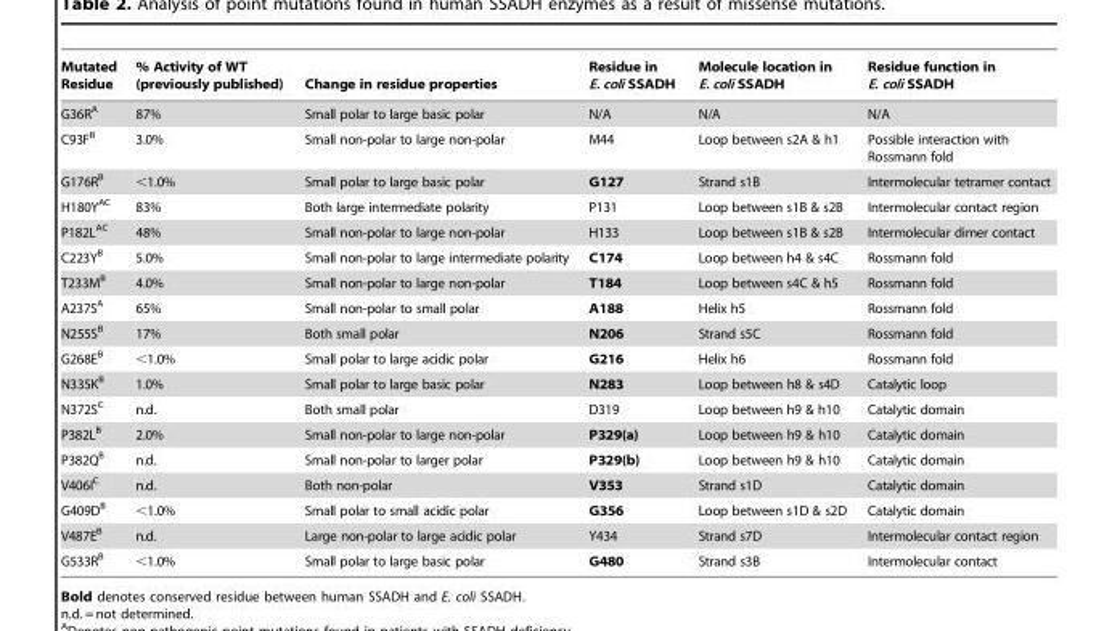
<table><thead><tr><td>Mutated Residue</td><td>% Activity of WT (previously published)</td><td>Change in residue properties</td><td>Residue in E. coli SSADH</td><td>Molecule location in E. coli SSADH</td><td>Residue function in E. coli SSADH</td></tr></thead><tbody><tr><td>G36R<sup>A</sup></td><td>87%</td><td>Small polar to large basic polar</td><td>N/A</td><td>N/A</td><td>N/A</td></tr><tr><td>C93F<sup>B</sup></td><td>3.0%</td><td>Small non-polar to large non-polar</td><td>M44</td><td>Loop between s2A &amp; h1</td><td>Possible interaction with Rossmann fold</td></tr><tr><td>G176R<sup>B</sup></td><td>&lt;1.0%</td><td>Small polar to large basic polar</td><td>G127</td><td>Strand s1B</td><td>Intermolecular tetramer contact</td></tr><tr><td>H180Y<sup>AC</sup></td><td>83%</td><td>Both large intermediate polarity</td><td>P131</td><td>Loop between s1B &amp; s2B</td><td>Intermolecular contact region</td></tr><tr><td>P182L<sup>AC</sup></td><td>48%</td><td>Small non-polar to large non-polar</td><td>H133</td><td>Loop between s1B &amp; s2B</td><td>Intermolecular dimer contact</td></tr><tr><td>C223Y<sup>B</sup></td><td>5.0%</td><td>Small non-polar to large intermediate polarity</td><td>C174</td><td>Loop between h4 &amp; s4C</td><td>Rossmann fold</td></tr><tr><td>T233M<sup>B</sup></td><td>4.0%</td><td>Small non-polar to large non-polar</td><td>T184</td><td>Loop between s4C &amp; h5</td><td>Rossmann fold</td></tr><tr><td>A237S<sup>A</sup></td><td>65%</td><td>Small non-polar to small polar</td><td>A188</td><td>Helix h5</td><td>Rossmann fold</td></tr><tr><td>N255S<sup>B</sup></td><td>17%</td><td>Both small polar</td><td>N206</td><td>Strand s5C</td><td>Rossmann fold</td></tr><tr><td>G268E<sup>B</sup></td><td>&lt;1.0%</td><td>Small polar to large acidic polar</td><td>G216</td><td>Helix h6</td><td>Rossmann fold</td></tr><tr><td>N335K<sup>B</sup></td><td>1.0%</td><td>Small polar to large basic polar</td><td>N283</td><td>Loop between h8 &amp; s4D</td><td>Catalytic loop</td></tr><tr><td>N372S<sup>C</sup></td><td>n.d.</td><td>Both small polar</td><td>D319</td><td>Loop between h9 &amp; h10</td><td>Catalytic domain</td></tr><tr><td>P382L<sup>B</sup></td><td>2.0%</td><td>Small non-polar to large non-polar</td><td>P329(a)</td><td>Loop between h9 &amp; h10</td><td>Catalytic domain</td></tr><tr><td>P382Q<sup>B</sup></td><td>n.d.</td><td>Small non-polar to larger polar</td><td>P329(b)</td><td>Loop between h9 &amp; h10</td><td>Catalytic domain</td></tr><tr><td>V406I<sup>C</sup></td><td>n.d.</td><td>Both non-polar</td><td>V353</td><td>Strand s1D</td><td>Catalytic domain</td></tr><tr><td>G409D<sup>B</sup></td><td>&lt;1.0%</td><td>Small polar to small acidic polar</td><td>G356</td><td>Loop between s1D &amp; s2D</td><td>Catalytic domain</td></tr><tr><td>V487E<sup>B</sup></td><td>n.d.</td><td>Large non-polar to large acidic polar</td><td>Y434</td><td>Strand s7D</td><td>Intermolecular contact region</td></tr><tr><td>G533R<sup>B</sup></td><td>&lt;1.0%</td><td>Small polar to large basic polar</td><td>G480</td><td>Strand s3B</td><td>Intermolecular contact</td></tr></tbody></table>